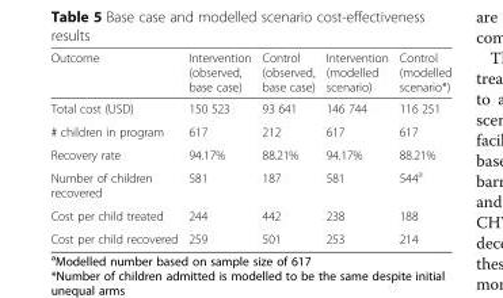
<table><thead><tr><td>Outcome</td><td>Intervention (observed, base case)</td><td>Control (observed, base case)</td><td>Intervention (modelled scenario)</td><td>Control (modelled scenario*)</td></tr></thead><tbody><tr><td>Total cost (USD)</td><td>150 523</td><td>93 641</td><td>146 744</td><td>116 251</td></tr><tr><td># children in program</td><td>617</td><td>212</td><td>617</td><td>617</td></tr><tr><td>Recovery rate</td><td>94.17%</td><td>88.21%</td><td>94.17%</td><td>88.21%</td></tr><tr><td>Number of children recovered</td><td>581</td><td>187</td><td>581</td><td>544<sup>a</sup></td></tr><tr><td>Cost per child treated</td><td>244</td><td>442</td><td>238</td><td>188</td></tr><tr><td>Cost per child recovered</td><td>259</td><td>501</td><td>253</td><td>214</td></tr></tbody></table>